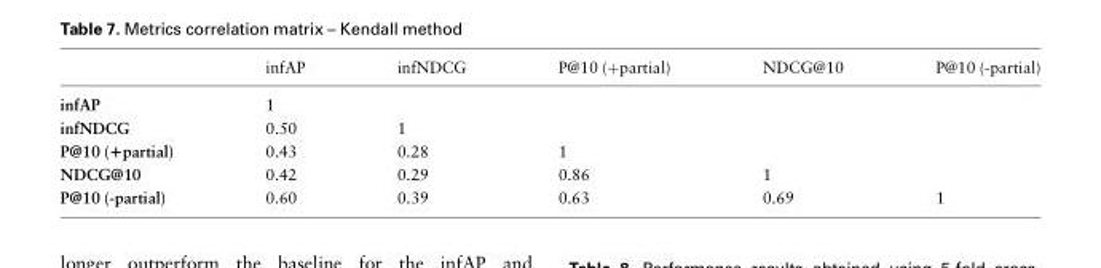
<table><thead><tr><td></td><td>infAP</td><td>infNDCG</td><td>P@10 (+partial)</td><td>NDCG@10</td><td>P@10 (-partial)</td></tr></thead><tbody><tr><td>infAP</td><td>1</td><td></td><td></td><td></td><td></td></tr><tr><td>infNDCG</td><td>0.50</td><td>1</td><td></td><td></td><td></td></tr><tr><td>P@10 (+partial)</td><td>0.43</td><td>0.28</td><td>1</td><td></td><td></td></tr><tr><td>NDCG@10</td><td>0.42</td><td>0.29</td><td>0.86</td><td>1</td><td></td></tr><tr><td>P@10 (-partial)</td><td>0.60</td><td>0.39</td><td>0.63</td><td>0.69</td><td>1</td></tr></tbody></table>